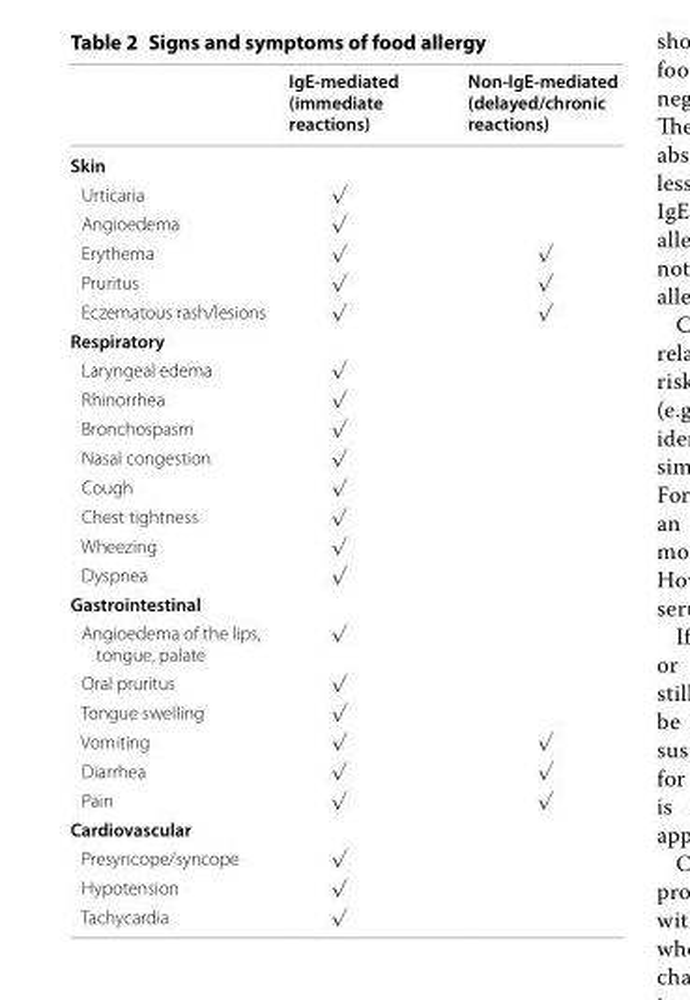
<table><thead><tr><td></td><td>IgE-mediated (immediate reactions)</td><td>Non-IgE-mediated (delayed/chronic reactions)</td></tr></thead><tbody><tr><td colspan="3">Skin</td></tr><tr><td>Urticaria</td><td>√</td><td></td></tr><tr><td>Angioedema</td><td>√</td><td></td></tr><tr><td>Erythema</td><td>√</td><td>√</td></tr><tr><td>Pruritus</td><td>√</td><td>√</td></tr><tr><td>Eczematous rash/lesions</td><td>√</td><td>√</td></tr><tr><td colspan="3">Respiratory</td></tr><tr><td>Laryngeal edema</td><td>√</td><td></td></tr><tr><td>Rhinorrhea</td><td>√</td><td></td></tr><tr><td>Bronchospasm</td><td>√</td><td></td></tr><tr><td>Nasal congestion</td><td>√</td><td></td></tr><tr><td>Cough</td><td>√</td><td></td></tr><tr><td>Chest tightness</td><td>√</td><td></td></tr><tr><td>Wheezing</td><td>√</td><td></td></tr><tr><td>Dyspnea</td><td>√</td><td></td></tr><tr><td colspan="3">Gastrointestinal</td></tr><tr><td>Angioedema of the lips, tongue, palate</td><td>√</td><td></td></tr><tr><td>Oral pruritus</td><td>√</td><td></td></tr><tr><td>Tongue swelling</td><td>√</td><td></td></tr><tr><td>Vomiting</td><td>√</td><td>√</td></tr><tr><td>Diarrhea</td><td>√</td><td>√</td></tr><tr><td>Pain</td><td>√</td><td>√</td></tr><tr><td colspan="3">Cardiovascular</td></tr><tr><td>Presyncope/syncope</td><td>√</td><td></td></tr><tr><td>Hypotension</td><td>√</td><td></td></tr><tr><td>Tachycardia</td><td>√</td><td></td></tr></tbody></table>